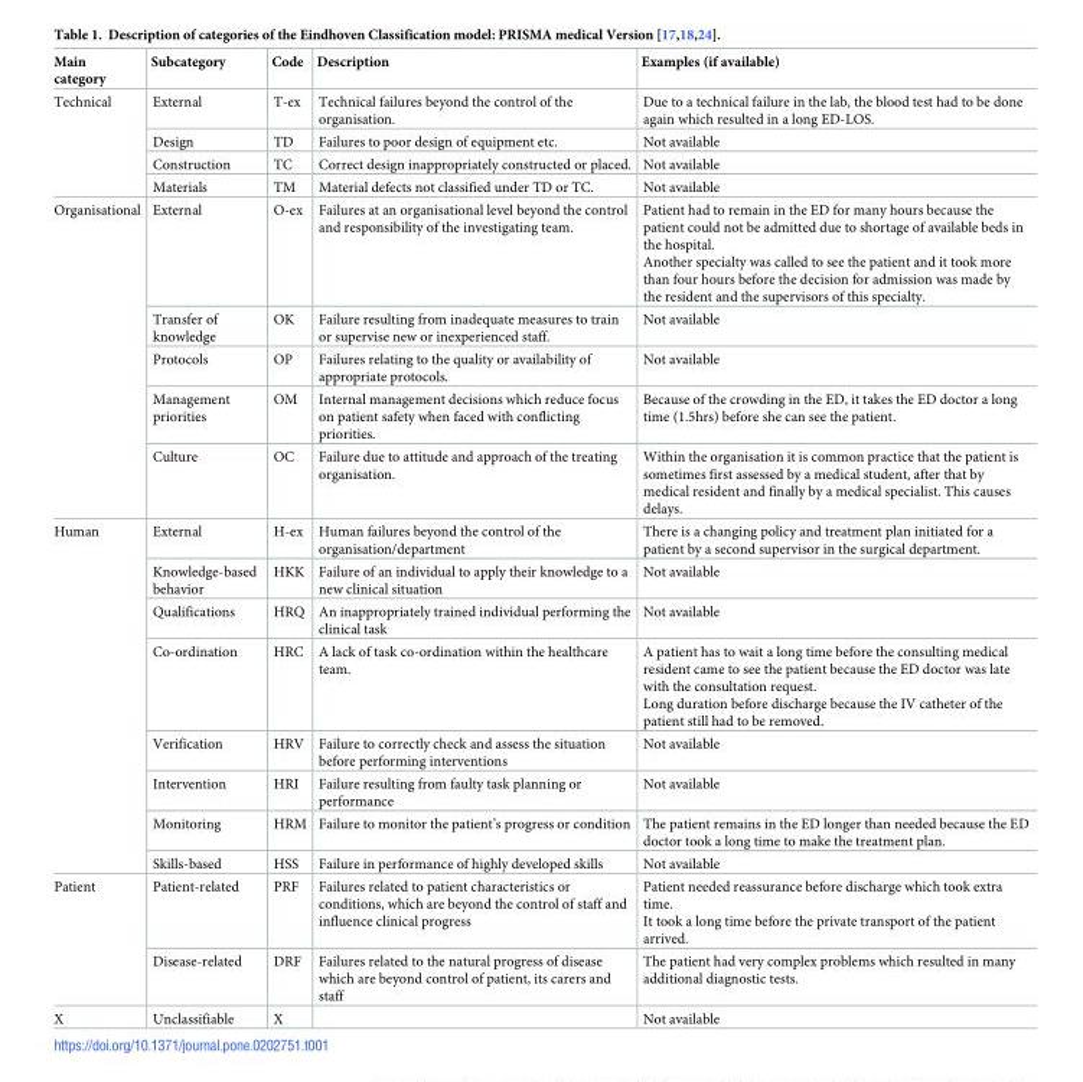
<table><thead><tr><td>Main category</td><td>Subcategory</td><td>Code</td><td>Description</td><td>Examples (if available)</td></tr></thead><tbody><tr><td rowspan="4">Technical</td><td>External</td><td>T-ex</td><td>Technical failures beyond the control of the organisation.</td><td>Due to a technical failure in the lab, the blood test had to be done again which resulted in a long ED-LOS.</td></tr><tr><td>Design</td><td>TD</td><td>Failures to poor design of equipment etc.</td><td>Not available</td></tr><tr><td>Construction</td><td>TC</td><td>Correct design inappropriately constructed or placed.</td><td>Not available</td></tr><tr><td>Materials</td><td>TM</td><td>Material defects not classified under TD or TC.</td><td>Not available</td></tr><tr><td rowspan="5">Organisational</td><td>External</td><td>O-ex</td><td>Failures at an organisational level beyond the control and responsibility of the investigating team.</td><td>Patient had to remain in the ED for many hours because the patient could not be admitted due to shortage of available beds in the hospital. Another specialty was called to see the patient and it took more than four hours before the decision for admission was made by the resident and the supervisors of this specialty.</td></tr><tr><td>Transfer of knowledge</td><td>OK</td><td>Failure resulting from inadequate measures to train or supervise new or inexperienced staff.</td><td>Not available</td></tr><tr><td>Protocols</td><td>OP</td><td>Failures relating to the quality or availability of appropriate protocols.</td><td>Not available</td></tr><tr><td>Management priorities</td><td>OM</td><td>Internal management decisions which reduce focus on patient safety when faced with conflicting priorities.</td><td>Because of the crowding in the ED, it takes the ED doctor a long time (1.5hrs) before she can see the patient.</td></tr><tr><td>Culture</td><td>OC</td><td>Failure due to attitude and approach of the treating organisation.</td><td>Within the organisation it is common practice that the patient is sometimes first assessed by a medical student, after that by medical resident and finally by a medical specialist. This causes delays.</td></tr><tr><td rowspan="8">Human</td><td>External</td><td>H-ex</td><td>Human failures beyond the control of the organisation/department</td><td>There is a changing policy and treatment plan initiated for a patient by a second supervisor in the surgical department.</td></tr><tr><td>Knowledge-based behavior</td><td>HKK</td><td>Failure of an individual to apply their knowledge to a new clinical situation</td><td>Not available</td></tr><tr><td>Qualifications</td><td>HRQ</td><td>An inappropriately trained individual performing the clinical task</td><td>Not available</td></tr><tr><td>Co-ordination</td><td>HRC</td><td>A lack of task co-ordination within the healthcare team.</td><td>A patient has to wait a long time before the consulting medical resident came to see the patient because the ED doctor was late with the consultation request. Long duration before discharge because the IV catheter of the patient still had to be removed.</td></tr><tr><td>Verification</td><td>HRV</td><td>Failure to correctly check and assess the situation before performing interventions</td><td>Not available</td></tr><tr><td>Intervention</td><td>HRI</td><td>Failure resulting from faulty task planning or performance</td><td>Not available</td></tr><tr><td>Monitoring</td><td>HRM</td><td>Failure to monitor the patient’s progress or condition</td><td>The patient remains in the ED longer than needed because the ED doctor took a long time to make the treatment plan.</td></tr><tr><td>Skills-based</td><td>HSS</td><td>Failure in performance of highly developed skills</td><td>Not available</td></tr><tr><td rowspan="2">Patient</td><td>Patient-related</td><td>PRF</td><td>Failures related to patient characteristics or conditions, which are beyond the control of staff and influence clinical progress</td><td>Patient needed reassurance before discharge which took extra time. It took a long time before the private transport of the patient arrived.</td></tr><tr><td>Disease-related</td><td>DRF</td><td>Failures related to the natural progress of disease which are beyond control of patient, its carers and staff</td><td>The patient had very complex problems which resulted in many additional diagnostic tests.</td></tr><tr><td>X</td><td>Unclassifiable</td><td>X</td><td></td><td>Not available</td></tr></tbody></table>